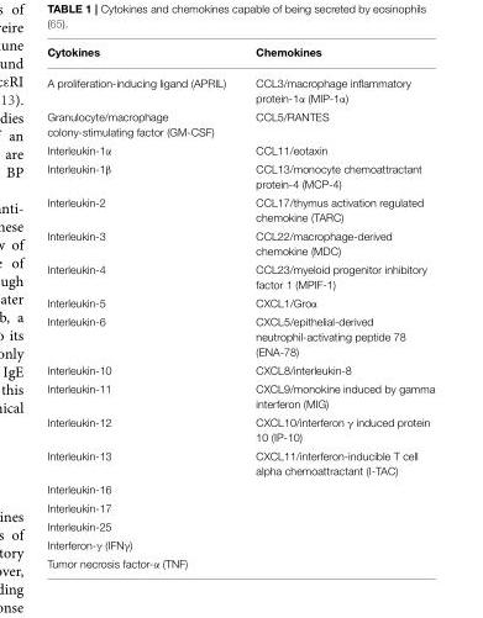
<table><thead><tr><td>Cytokines</td><td>Chemokines</td></tr></thead><tbody><tr><td>A proliferation-inducing ligand (APRIL)</td><td>CCL3/macrophage inflammatory protein-1α (MIP-1α)</td></tr><tr><td>Granulocyte/macrophage colony-stimulating factor (GM-CSF)</td><td>CCL5/RANTES</td></tr><tr><td>Interleukin-1α</td><td>CCL11/eotaxin</td></tr><tr><td>Interleukin-1β</td><td>CCL13/monocyte chemoattractant protein-4 (MCP-4)</td></tr><tr><td>Interleukin-2</td><td>CCL17/thymus activation regulated chemokine (TARC)</td></tr><tr><td>Interleukin-3</td><td>CCL22/macrophage-derived chemokine (MDC)</td></tr><tr><td>Interleukin-4</td><td>CCL23/myeloid progenitor inhibitory factor 1 (MPIF-1)</td></tr><tr><td>Interleukin-5</td><td>CXCL1/Groα</td></tr><tr><td>Interleukin-6</td><td>CXCL5/epithelial-derived neutrophil-activating peptide 78 (ENA-78)</td></tr><tr><td>Interleukin-10</td><td>CXCL8/interleukin-8</td></tr><tr><td>Interleukin-11</td><td>CXCL9/monokine induced by gamma interferon (MIG)</td></tr><tr><td>Interleukin-12</td><td>CXCL10/interferon γ induced protein 10 (IP-10)</td></tr><tr><td>Interleukin-13</td><td>CXCL11/interferon-inducible T cell alpha chemoattractant (I-TAC)</td></tr><tr><td colspan="2">Interleukin-16</td></tr><tr><td colspan="2">Interleukin-17</td></tr><tr><td colspan="2">Interleukin-25</td></tr><tr><td colspan="2">Interferon-γ (IFNγ)</td></tr><tr><td>Tumor necrosis factor-α (TNF)</td><td></td></tr></tbody></table>